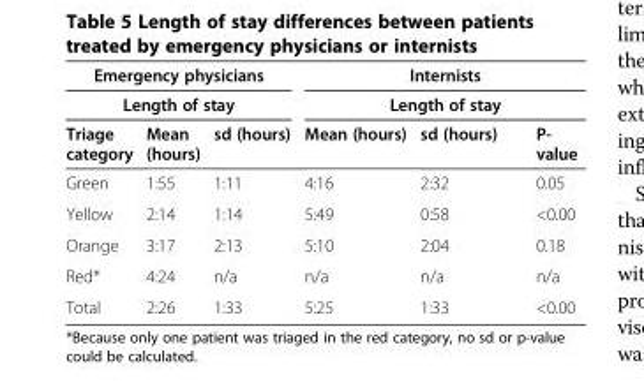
<table><thead><tr><td rowspan="2" colspan="3">Emergency physicians Length of stay</td><td rowspan="2" colspan="3">Internists Length of stay</td></tr><tr></tr><tr><td>Triage category</td><td>Mean (hours)</td><td>sd (hours)</td><td>Mean (hours)</td><td>sd (hours)</td><td>P- value</td></tr></thead><tbody><tr><td>Green</td><td>1:55</td><td>1:11</td><td>4:16</td><td>2:32</td><td>0.05</td></tr><tr><td>Yellow</td><td>2:14</td><td>1:14</td><td>5:49</td><td>0:58</td><td>&lt;0.00</td></tr><tr><td>Orange</td><td>3:17</td><td>2:13</td><td>5:10</td><td>2:04</td><td>0.18</td></tr><tr><td>Red*</td><td>4:24</td><td>n/a</td><td>n/a</td><td>n/a</td><td>n/a</td></tr><tr><td>Total</td><td>2:26</td><td>1:33</td><td>5:25</td><td>1:33</td><td>&lt;0.00</td></tr></tbody></table>